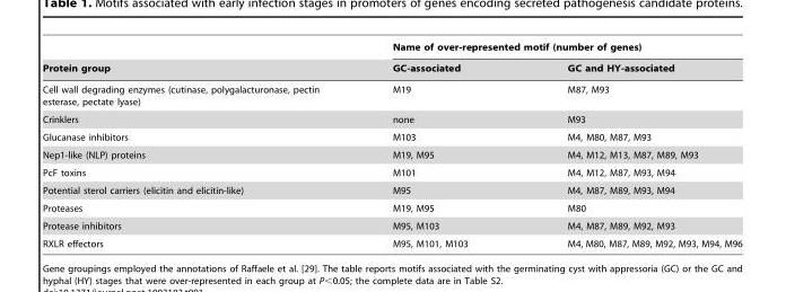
<table><thead><tr><td rowspan="2">Protein group</td><td colspan="2">Name of over-represented motif (number of genes)</td></tr><tr><td>GC-associated</td><td>GC and HY-associated</td></tr></thead><tbody><tr><td>Cell wall degrading enzymes (cutinase, polygalacturonase, pectin esterase, pectate lyase)</td><td>M19</td><td>M87, M93</td></tr><tr><td>Crinklers</td><td>none</td><td>M93</td></tr><tr><td>Glucanase inhibitors</td><td>M103</td><td>M4, M80, M87, M93</td></tr><tr><td>Nep1-like (NLP) proteins</td><td>M19, M95</td><td>M4, M12, M13, M87, M89, M93</td></tr><tr><td>PcF toxins</td><td>M101</td><td>M4, M12, M87, M93, M94</td></tr><tr><td>Potential sterol carriers (elicitin and elicitin-like)</td><td>M95</td><td>M4, M87, M89, M93, M94</td></tr><tr><td>Proteases</td><td>M19, M95</td><td>M80</td></tr><tr><td>Protease inhibitors</td><td>M95, M103</td><td>M4, M87, M89, M92, M93</td></tr><tr><td>RXLR effectors</td><td>M95, M101, M103</td><td>M4, M80, M87, M89, M92, M93, M94, M96</td></tr></tbody></table>